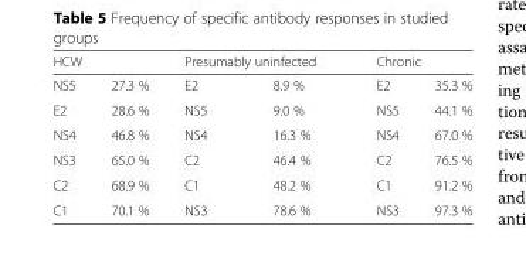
<table><thead><tr><td colspan="2">HCW</td><td colspan="2">Presumably uninfected</td><td colspan="2">Chronic</td></tr><tr><td>NS5</td><td>27.3 %</td><td>E2</td><td>8.9 %</td><td>E2</td><td>35.3 %</td></tr></thead><tbody><tr><td>E2</td><td>28.6 %</td><td>NS5</td><td>9.0 %</td><td>NS5</td><td>44.1 %</td></tr><tr><td>NS4</td><td>46.8 %</td><td>NS4</td><td>16.3 %</td><td>NS4</td><td>67.0 %</td></tr><tr><td>NS3</td><td>65.0 %</td><td>C2</td><td>46.4 %</td><td>C2</td><td>76.5 %</td></tr><tr><td>C2</td><td>68.9 %</td><td>C1</td><td>48.2 %</td><td>C1</td><td>91.2 %</td></tr><tr><td>C1</td><td>70.1 %</td><td>NS3</td><td>78.6 %</td><td>NS3</td><td>97.3 %</td></tr></tbody></table>